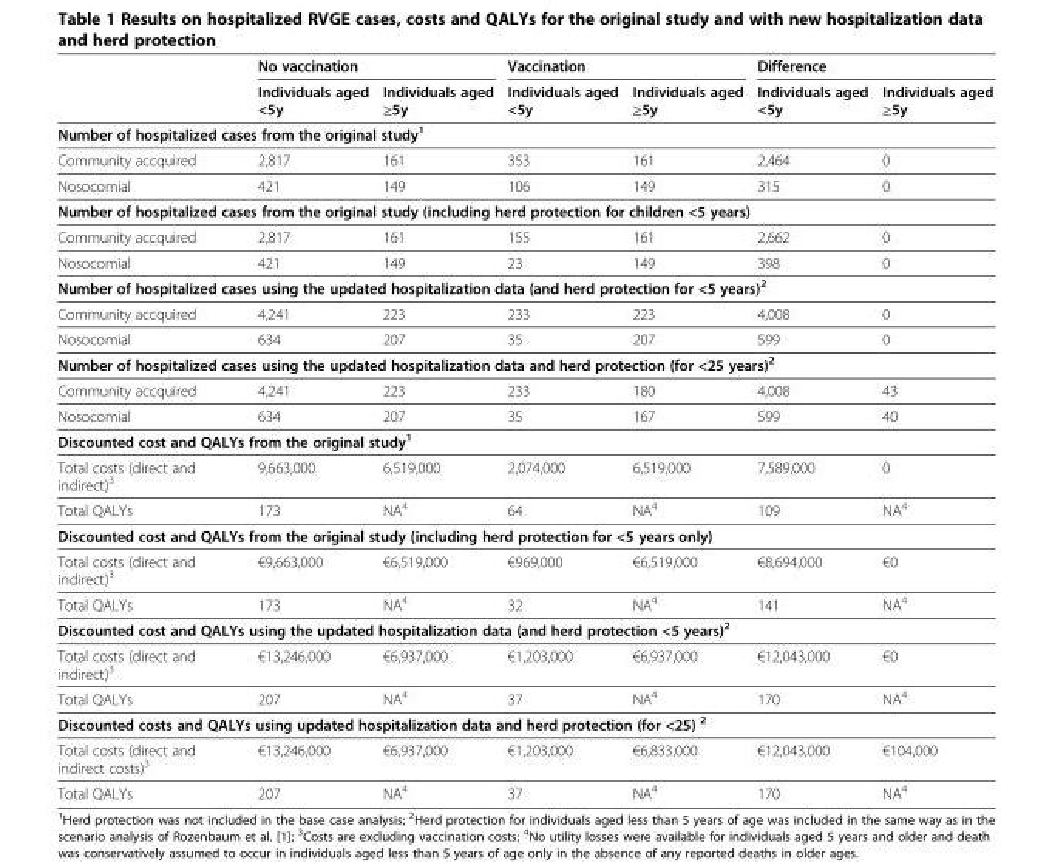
<table><thead><tr><td rowspan="2"></td><td colspan="2">No vaccination</td><td colspan="2">Vaccination</td><td colspan="2">Difference</td></tr><tr><td>Individuals aged &lt;5y</td><td>Individuals aged ≥5y</td><td>Individuals aged &lt;5y</td><td>Individuals aged ≥5y</td><td>Individuals aged &lt;5y</td><td>Individuals aged ≥5y</td></tr></thead><tbody><tr><td colspan="7">Number of hospitalized cases from the original study<sup>1</sup></td></tr><tr><td>Community accquired</td><td>2,817</td><td>161</td><td>353</td><td>161</td><td>2,464</td><td>0</td></tr><tr><td>Nosocomial</td><td>421</td><td>149</td><td>106</td><td>149</td><td>315</td><td>0</td></tr><tr><td colspan="7">Number of hospitalized cases from the original study (including herd protection for children &lt;5 years)</td></tr><tr><td>Community accquired</td><td>2,817</td><td>161</td><td>155</td><td>161</td><td>2,662</td><td>0</td></tr><tr><td>Nosocomial</td><td>421</td><td>149</td><td>23</td><td>149</td><td>398</td><td>0</td></tr><tr><td colspan="7">Number of hospitalized cases using the updated hospitalization data (and herd protection for &lt;5 years)<sup>2</sup></td></tr><tr><td>Community accquired</td><td>4,241</td><td>223</td><td>233</td><td>223</td><td>4,008</td><td>0</td></tr><tr><td>Nosocomial</td><td>634</td><td>207</td><td>35</td><td>207</td><td>599</td><td>0</td></tr><tr><td colspan="7">Number of hospitalized cases using the updated hospitalization data and herd protection (for &lt;25 years)<sup>2</sup></td></tr><tr><td>Community accquired</td><td>4,241</td><td>223</td><td>233</td><td>180</td><td>4,008</td><td>43</td></tr><tr><td>Nosocomial</td><td>634</td><td>207</td><td>35</td><td>167</td><td>599</td><td>40</td></tr><tr><td colspan="7">Discounted cost and QALYs from the original study<sup>1</sup></td></tr><tr><td>Total costs (direct and indirect)<sup>3</sup></td><td>9,663,000</td><td>6,519,000</td><td>2,074,000</td><td>6,519,000</td><td>7,589,000</td><td>0</td></tr><tr><td>Total QALYs</td><td>173</td><td>NA<sup>4</sup></td><td>64</td><td>NA<sup>4</sup></td><td>109</td><td>NA<sup>4</sup></td></tr><tr><td colspan="7">Discounted cost and QALYs from the original study (including herd protection for &lt;5 years only)</td></tr><tr><td>Total costs (direct and indirect)<sup>3</sup></td><td>€9,663,000</td><td>€6,519,000</td><td>€969,000</td><td>€6,519,000</td><td>€8,694,000</td><td>€0</td></tr><tr><td>Total QALYs</td><td>173</td><td>NA<sup>4</sup></td><td>32</td><td>NA<sup>4</sup></td><td>141</td><td>NA<sup>4</sup></td></tr><tr><td colspan="7">Discounted cost and QALYs using the updated hospitalization data (and herd protection &lt;5 years)<sup>2</sup></td></tr><tr><td>Total costs (direct and indirect)<sup>3</sup></td><td>€13,246,000</td><td>€6,937,000</td><td>€1,203,000</td><td>€6,937,000</td><td>€12,043,000</td><td>€0</td></tr><tr><td>Total QALYs</td><td>207</td><td>NA<sup>4</sup></td><td>37</td><td>NA<sup>4</sup></td><td>170</td><td>NA<sup>4</sup></td></tr><tr><td colspan="7">Discounted costs and QALYs using updated hospitalization data and herd protection (for &lt;25) <sup>2</sup></td></tr><tr><td>Total costs (direct and indirect costs)<sup>3</sup></td><td>€13,246,000</td><td>€6,937,000</td><td>€1,203,000</td><td>€6,833,000</td><td>€12,043,000</td><td>€104,000</td></tr><tr><td>Total QALYs</td><td>207</td><td>NA<sup>4</sup></td><td>37</td><td>NA<sup>4</sup></td><td>170</td><td>NA<sup>4</sup></td></tr></tbody></table>